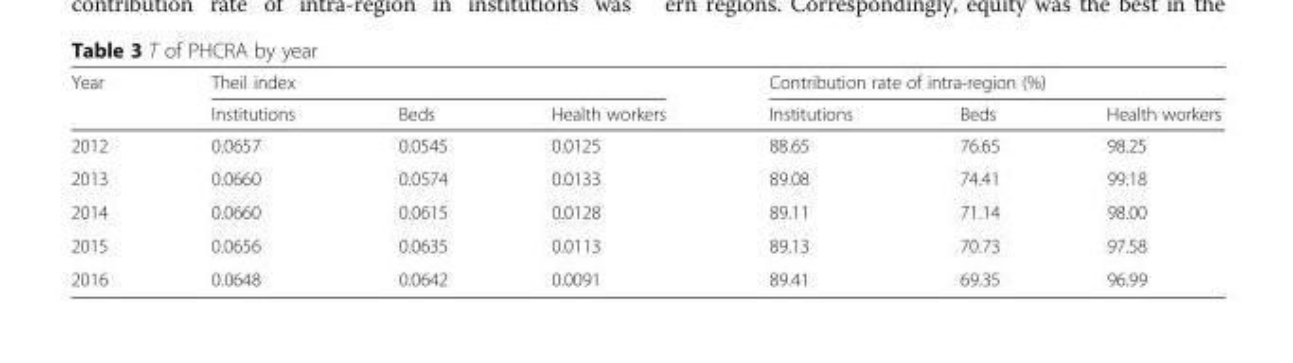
<table><thead><tr><td rowspan="2">Year</td><td colspan="3">Theil index</td><td colspan="3">Contribution rate of intra-region (%)</td></tr><tr><td>Institutions</td><td>Beds</td><td>Health workers</td><td>Institutions</td><td>Beds</td><td>Health workers</td></tr></thead><tbody><tr><td>2012</td><td>0.0657</td><td>0.0545</td><td>0.0125</td><td>88.65</td><td>76.65</td><td>98.25</td></tr><tr><td>2013</td><td>0.0660</td><td>0.0574</td><td>0.0133</td><td>89.08</td><td>74.41</td><td>99.18</td></tr><tr><td>2014</td><td>0.0660</td><td>0.0615</td><td>0.0128</td><td>89.11</td><td>71.14</td><td>98.00</td></tr><tr><td>2015</td><td>0.0656</td><td>0.0635</td><td>0.0113</td><td>89.13</td><td>70.73</td><td>97.58</td></tr><tr><td>2016</td><td>0.0648</td><td>0.0642</td><td>0.0091</td><td>89.41</td><td>69.35</td><td>96.99</td></tr></tbody></table>